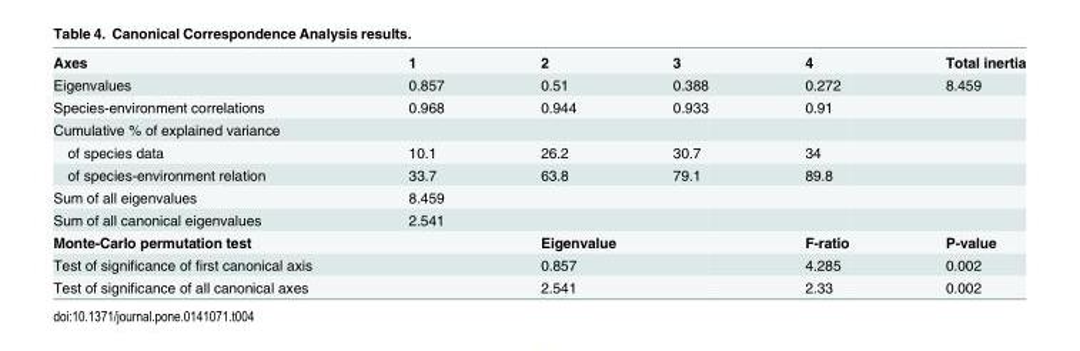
<table><tbody><tr><td>Axes</td><td>1</td><td>2</td><td>3</td><td>4</td><td>Total inertia</td></tr><tr><td>Eigenvalues</td><td>0.857</td><td>0.51</td><td>0.388</td><td>0.272</td><td>8.459</td></tr><tr><td>Species-environment correlations</td><td>0.968</td><td>0.944</td><td>0.933</td><td>0.91</td><td></td></tr><tr><td colspan="6">Cumulative % of explained variance</td></tr><tr><td>of species data</td><td>10.1</td><td>26.2</td><td>30.7</td><td>34</td><td></td></tr><tr><td>of species-environment relation</td><td>33.7</td><td>63.8</td><td>79.1</td><td>89.8</td><td></td></tr><tr><td>Sum of all eigenvalues</td><td>8.459</td><td></td><td></td><td></td><td></td></tr><tr><td>Sum of all canonical eigenvalues</td><td>2.541</td><td></td><td></td><td></td><td></td></tr><tr><td>Monte-Carlo permutation test</td><td></td><td colspan="2">Eigenvalue</td><td>F-ratio</td><td>P-value</td></tr><tr><td>Test of significance of first canonical axis</td><td></td><td colspan="2">0.857</td><td>4.285</td><td>0.002</td></tr><tr><td>Test of significance of all canonical axes</td><td></td><td colspan="2">2.541</td><td>2.33</td><td>0.002</td></tr></tbody></table>